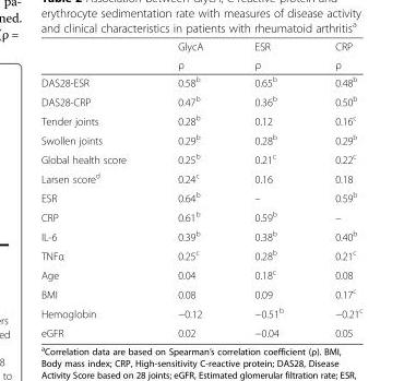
<table><thead><tr><td rowspan="2"></td><td rowspan="2">GlycA ρ</td><td rowspan="2">ESR ρ</td><td rowspan="2">CRP ρ</td></tr><tr></tr></thead><tbody><tr><td>DAS28-ESR</td><td>0.58<sup>b</sup></td><td>0.65<sup>b</sup></td><td>0.48<sup>b</sup></td></tr><tr><td>DAS28-CRP</td><td>0.47<sup>b</sup></td><td>0.36<sup>b</sup></td><td>0.50<sup>b</sup></td></tr><tr><td>Tender joints</td><td>0.28<sup>b</sup></td><td>0.12</td><td>0.16<sup>c</sup></td></tr><tr><td>Swollen joints</td><td>0.29<sup>b</sup></td><td>0.28<sup>b</sup></td><td>0.29<sup>b</sup></td></tr><tr><td>Global health score</td><td>0.25<sup>b</sup></td><td>0.21<sup>c</sup></td><td>0.22<sup>c</sup></td></tr><tr><td>Larsen score<sup>d</sup></td><td>0.24<sup>c</sup></td><td>0.16</td><td>0.18</td></tr><tr><td>ESR</td><td>0.64<sup>b</sup></td><td>–</td><td>0.59<sup>b</sup></td></tr><tr><td>CRP</td><td>0.61<sup>b</sup></td><td>0.59<sup>b</sup></td><td>–</td></tr><tr><td>IL-6</td><td>0.39<sup>b</sup></td><td>0.38<sup>b</sup></td><td>0.40<sup>b</sup></td></tr><tr><td>TNFα</td><td>0.25<sup>c</sup></td><td>0.28<sup>b</sup></td><td>0.21<sup>c</sup></td></tr><tr><td>Age</td><td>0.04</td><td>0.18<sup>c</sup></td><td>0.08</td></tr><tr><td>BMI</td><td>0.08</td><td>0.09</td><td>0.17<sup>c</sup></td></tr><tr><td>Hemoglobin</td><td>−0.12</td><td>−0.51<sup>b</sup></td><td>−0.21<sup>c</sup></td></tr><tr><td>eGFR</td><td>0.02</td><td>−0.04</td><td>0.05</td></tr></tbody></table>